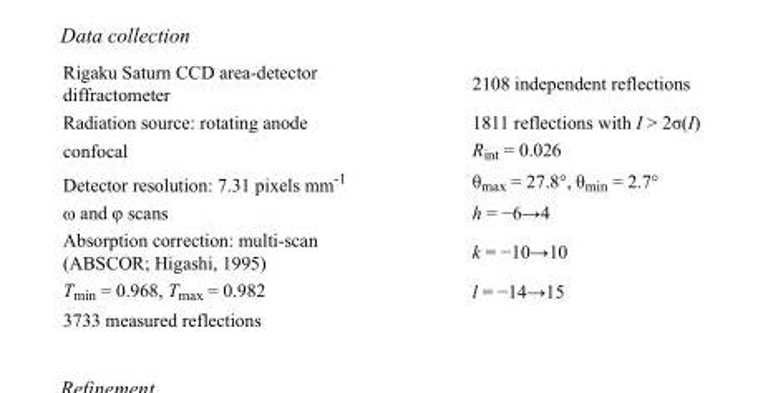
<table><tbody><tr><td>Rigaku Saturn CCD area-detector diffractometer</td><td>2108 independent reflections</td></tr><tr><td>Radiation source: rotating anode</td><td>1811 reflections with I &gt; 2σ(I)</td></tr><tr><td>confocal</td><td>R<sub>int</sub> = 0.026</td></tr><tr><td>Detector resolution: 7.31 pixels mm<sup>-1</sup></td><td>θ<sub>max</sub> = 27.8°, θ<sub>min</sub> = 2.7°</td></tr><tr><td>ω and φ scans</td><td>h = −6→4</td></tr><tr><td>Absorption correction: multi-scan (ABSCOR; Higashi, 1995)</td><td>k = −10→10</td></tr><tr><td>T<sub>min</sub> = 0.968, T<sub>max</sub> = 0.982</td><td>l = −14→15</td></tr><tr><td>3733 measured reflections</td><td></td></tr></tbody></table>